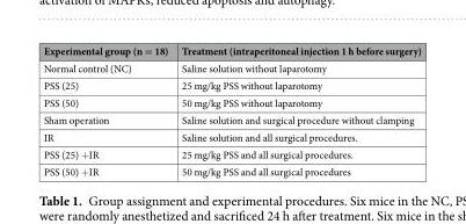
<table><thead><tr><td>Experimental group (n = 18)</td><td>Treatment (intraperitoneal injection 1 h before surgery)</td></tr></thead><tbody><tr><td>Normal control (NC)</td><td>Saline solution without laparotomy</td></tr><tr><td>PSS (25)</td><td>25 mg/kg PSS without laparotomy</td></tr><tr><td>PSS (50)</td><td>50 mg/kg PSS without laparotomy</td></tr><tr><td>Sham operation</td><td>Saline solution and surgical procedure without clamping</td></tr><tr><td>IR</td><td>Saline solution and all surgical procedures.</td></tr><tr><td>PSS (25) +IR</td><td>25 mg/kg PSS and all surgical procedures.</td></tr><tr><td>PSS (50) +IR</td><td>50 mg/kg PSS and all surgical procedures</td></tr></tbody></table>